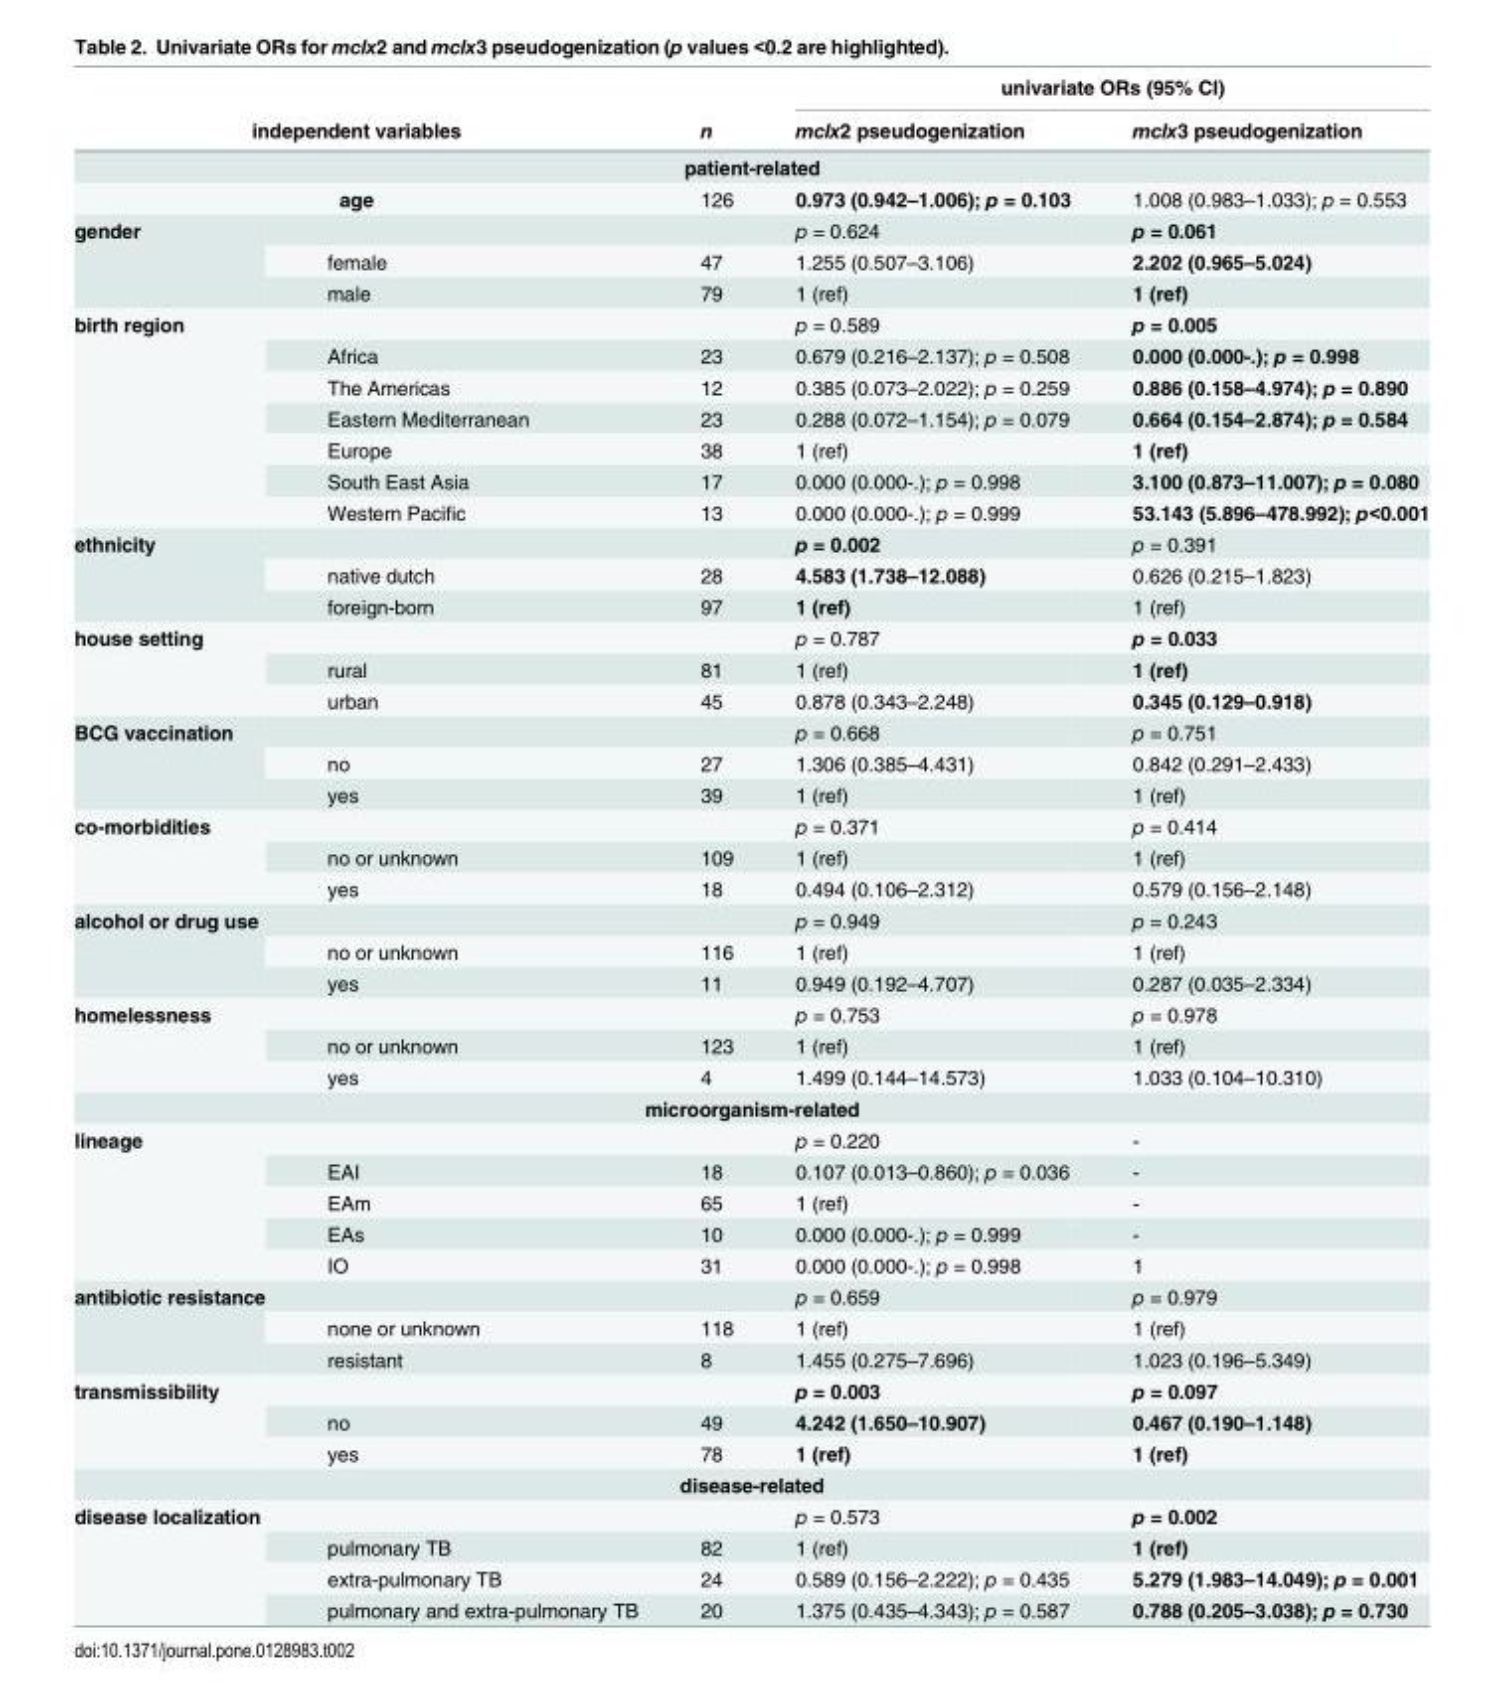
<table><thead><tr><td></td><td></td><td rowspan="2">n</td><td colspan="2">univariate ORs (95% CI)</td></tr><tr><td colspan="2">independent variables</td><td>mclx2 pseudogenization</td><td>mclx3 pseudogenization</td></tr></thead><tbody><tr><td colspan="5">patient-related</td></tr><tr><td colspan="2">age</td><td>126</td><td>0.973 (0.942–1.006); p = 0.103</td><td>1.008 (0.983–1.033); p = 0.553</td></tr><tr><td rowspan="3">gender</td><td></td><td></td><td>p = 0.624</td><td>p = 0.061</td></tr><tr><td>female</td><td>47</td><td>1.255 (0.507–3.106)</td><td>2.202 (0.965–5.024)</td></tr><tr><td>male</td><td>79</td><td>1 (ref)</td><td>1 (ref)</td></tr><tr><td rowspan="7">birth region</td><td></td><td></td><td>p = 0.589</td><td>p = 0.005</td></tr><tr><td>Africa</td><td>23</td><td>0.679 (0.216–2.137); p = 0.508</td><td>0.000 (0.000-.); p = 0.998</td></tr><tr><td>The Americas</td><td>12</td><td>0.385 (0.073–2.022); p = 0.259</td><td>0.886 (0.158–4.974); p = 0.890</td></tr><tr><td>Eastern Mediterranean</td><td>23</td><td>0.288 (0.072–1.154); p = 0.079</td><td>0.664 (0.154–2.874); p = 0.584</td></tr><tr><td>Europe</td><td>38</td><td>1 (ref)</td><td>1 (ref)</td></tr><tr><td>South East Asia</td><td>17</td><td>0.000 (0.000-.); p = 0.998</td><td>3.100 (0.873–11.007); p = 0.080</td></tr><tr><td>Western Pacific</td><td>13</td><td>0.000 (0.000-.); p = 0.999</td><td>53.143 (5.896–478.992); p&lt;0.001</td></tr><tr><td rowspan="3">ethnicity</td><td></td><td></td><td>p = 0.002</td><td>p = 0.391</td></tr><tr><td>native dutch</td><td>28</td><td>4.583 (1.738–12.088)</td><td>0.626 (0.215–1.823)</td></tr><tr><td>foreign-born</td><td>97</td><td>1 (ref)</td><td>1 (ref)</td></tr><tr><td rowspan="3">house setting</td><td></td><td></td><td>p = 0.787</td><td>p = 0.033</td></tr><tr><td>rural</td><td>81</td><td>1 (ref)</td><td>1 (ref)</td></tr><tr><td>urban</td><td>45</td><td>0.878 (0.343–2.248)</td><td>0.345 (0.129–0.918)</td></tr><tr><td rowspan="3">BCG vaccination</td><td></td><td></td><td>p = 0.668</td><td>p = 0.751</td></tr><tr><td>no</td><td>27</td><td>1.306 (0.385–4.431)</td><td>0.842 (0.291–2.433)</td></tr><tr><td>yes</td><td>39</td><td>1 (ref)</td><td>1 (ref)</td></tr><tr><td rowspan="3">co-morbidities</td><td></td><td></td><td>p = 0.371</td><td>p = 0.414</td></tr><tr><td>no or unknown</td><td>109</td><td>1 (ref)</td><td>1 (ref)</td></tr><tr><td>yes</td><td>18</td><td>0.494 (0.106–2.312)</td><td>0.579 (0.156–2.148)</td></tr><tr><td rowspan="3">alcohol or drug use</td><td></td><td></td><td>p = 0.949</td><td>p = 0.243</td></tr><tr><td>no or unknown</td><td>116</td><td>1 (ref)</td><td>1 (ref)</td></tr><tr><td>yes</td><td>11</td><td>0.949 (0.192–4.707)</td><td>0.287 (0.035–2.334)</td></tr><tr><td rowspan="3">homelessness</td><td></td><td></td><td>p = 0.753</td><td>p = 0.978</td></tr><tr><td>no or unknown</td><td>123</td><td>1 (ref)</td><td>1 (ref)</td></tr><tr><td>yes</td><td>4</td><td>1.499 (0.144–14.573)</td><td>1.033 (0.104–10.310)</td></tr><tr><td colspan="5">microorganism-related</td></tr><tr><td rowspan="5">lineage</td><td></td><td></td><td>p = 0.220</td><td>-</td></tr><tr><td>EAI</td><td>18</td><td>0.107 (0.013–0.860); p = 0.036</td><td>-</td></tr><tr><td>EAm</td><td>65</td><td>1 (ref)</td><td>-</td></tr><tr><td>EAs</td><td>10</td><td>0.000 (0.000-.); p = 0.999</td><td>-</td></tr><tr><td>IO</td><td>31</td><td>0.000 (0.000-.); p = 0.998</td><td>1</td></tr><tr><td rowspan="3">antibiotic resistance</td><td></td><td></td><td>p = 0.659</td><td>p = 0.979</td></tr><tr><td>none or unknown</td><td>118</td><td>1 (ref)</td><td>1 (ref)</td></tr><tr><td>resistant</td><td>8</td><td>1.455 (0.275–7.696)</td><td>1.023 (0.196–5.349)</td></tr><tr><td rowspan="3">transmissibility</td><td></td><td></td><td>p = 0.003</td><td>p = 0.097</td></tr><tr><td>no</td><td>49</td><td>4.242 (1.650–10.907)</td><td>0.467 (0.190–1.148)</td></tr><tr><td>yes</td><td>78</td><td>1 (ref)</td><td>1 (ref)</td></tr><tr><td colspan="5">disease-related</td></tr><tr><td rowspan="4">disease localization</td><td></td><td></td><td>p = 0.573</td><td>p = 0.002</td></tr><tr><td>pulmonary TB</td><td>82</td><td>1 (ref)</td><td>1 (ref)</td></tr><tr><td>extra-pulmonary TB</td><td>24</td><td>0.589 (0.156–2.222); p = 0.435</td><td>5.279 (1.983–14.049); p = 0.001</td></tr><tr><td>pulmonary and extra-pulmonary TB</td><td>20</td><td>1.375 (0.435–4.343); p = 0.587</td><td>0.788 (0.205–3.038); p = 0.730</td></tr></tbody></table>